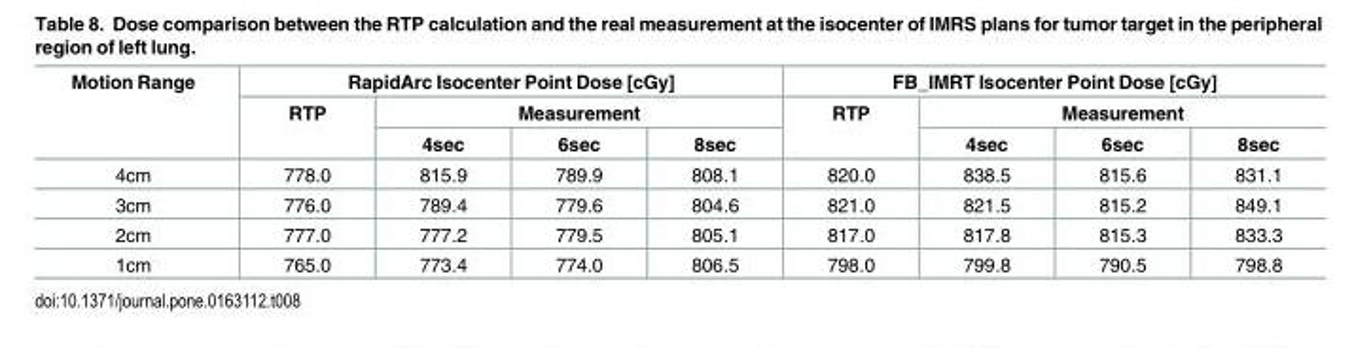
<table><thead><tr><td rowspan="3">Motion Range</td><td colspan="4">RapidArc Isocenter Point Dose [cGy]</td><td colspan="4">FB_IMRT Isocenter Point Dose [cGy]</td></tr><tr><td rowspan="2">RTP</td><td colspan="3">Measurement</td><td rowspan="2">RTP</td><td colspan="3">Measurement</td></tr><tr><td>4sec</td><td>6sec</td><td>8sec</td><td>4sec</td><td>6sec</td><td>8sec</td></tr></thead><tbody><tr><td>4cm</td><td>778.0</td><td>815.9</td><td>789.9</td><td>808.1</td><td>820.0</td><td>838.5</td><td>815.6</td><td>831.1</td></tr><tr><td>3cm</td><td>776.0</td><td>789.4</td><td>779.6</td><td>804.6</td><td>821.0</td><td>821.5</td><td>815.2</td><td>849.1</td></tr><tr><td>2cm</td><td>777.0</td><td>777.2</td><td>779.5</td><td>805.1</td><td>817.0</td><td>817.8</td><td>815.3</td><td>833.3</td></tr><tr><td>1cm</td><td>765.0</td><td>773.4</td><td>774.0</td><td>806.5</td><td>798.0</td><td>799.8</td><td>790.5</td><td>798.8</td></tr></tbody></table>